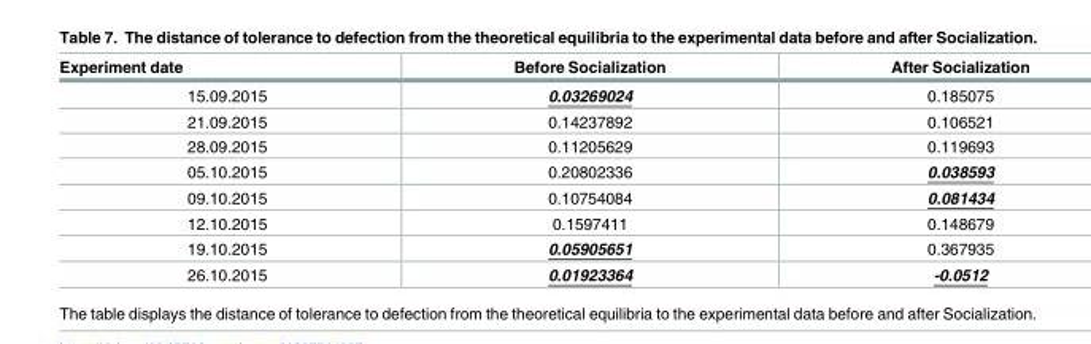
<table><thead><tr><td>Experiment date</td><td>Before Socialization</td><td>After Socialization</td></tr></thead><tbody><tr><td>15.09.2015</td><td>0.03269024</td><td>0.185075</td></tr><tr><td>21.09.2015</td><td>0.14237892</td><td>0.106521</td></tr><tr><td>28.09.2015</td><td>0.11205629</td><td>0.119693</td></tr><tr><td>05.10.2015</td><td>0.20802336</td><td>0.038593</td></tr><tr><td>09.10.2015</td><td>0.10754084</td><td>0.081434</td></tr><tr><td>12.10.2015</td><td>0.1597411</td><td>0.148679</td></tr><tr><td>19.10.2015</td><td>0.05905651</td><td>0.367935</td></tr><tr><td>26.10.2015</td><td>0.01923364</td><td>-0.0512</td></tr></tbody></table>